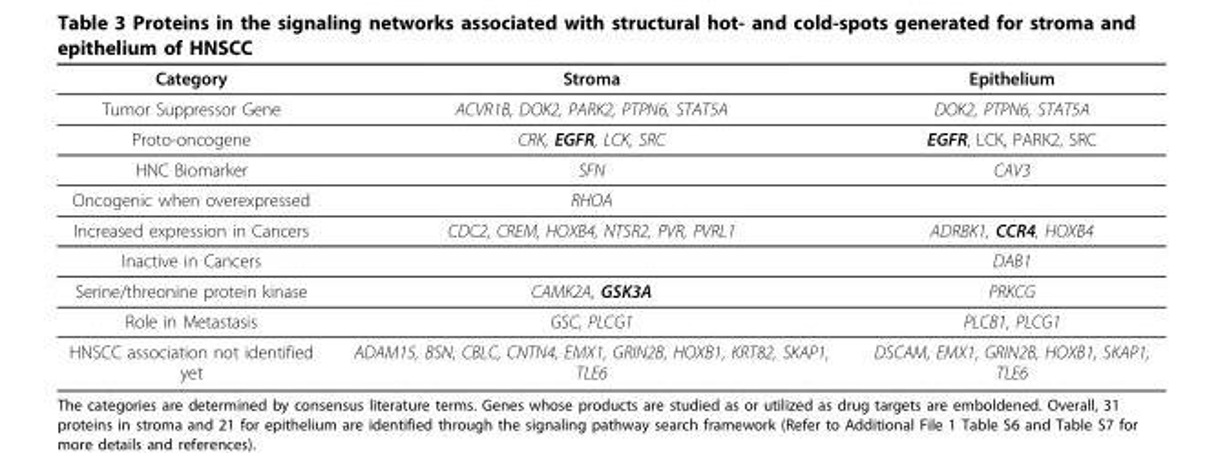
<table><thead><tr><td>Category</td><td>Stroma</td><td>Epithelium</td></tr></thead><tbody><tr><td>Tumor Suppressor Gene</td><td>ACVR1B, DOK2, PARK2, PTPN6, STAT5A</td><td>DOK2, PTPN6, STAT5A</td></tr><tr><td>Proto-oncogene</td><td>CRK, EGFR, LCK, SRC</td><td>EGFR, LCK, PARK2, SRC</td></tr><tr><td>HNC Biomarker</td><td>SFN</td><td>CAV3</td></tr><tr><td>Oncogenic when overexpressed</td><td>RHOA</td><td></td></tr><tr><td>Increased expression in Cancers</td><td>CDC2, CREM, HOXB4, NTSR2, PVR, PVRL1</td><td>ADRBK1, CCR4, HOXB4</td></tr><tr><td>Inactive in Cancers</td><td></td><td>DAB1</td></tr><tr><td>Serine/threonine protein kinase</td><td>CAMK2A, GSK3A</td><td>PRKCG</td></tr><tr><td>Role in Metastasis</td><td>GSC, PLCG1</td><td>PLCB1, PLCG1</td></tr><tr><td>HNSCC association not identified yet</td><td>ADAM15, BSN, CBLC, CNTN4, EMX1, GRIN2B, HOXB1, KRT82, SKAP1, TLE6</td><td>DSCAM, EMX1, GRIN2B, HOXB1, SKAP1, TLE6</td></tr></tbody></table>